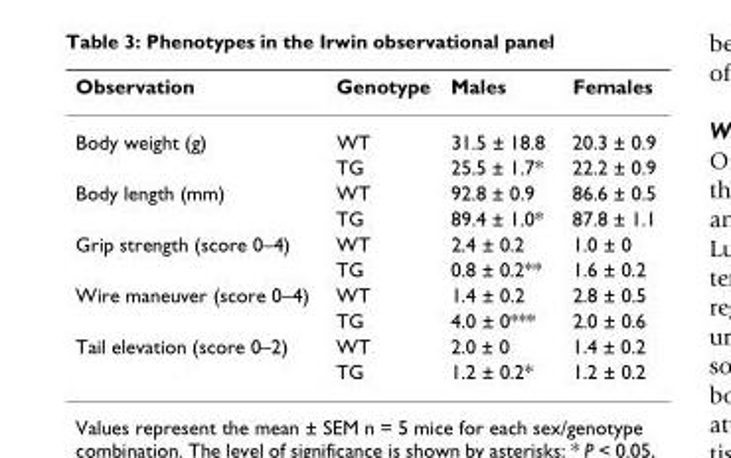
<table><thead><tr><td>Observation</td><td>Genotype</td><td>Males</td><td>Females</td></tr></thead><tbody><tr><td rowspan="2">Body weight (g)</td><td>WT</td><td>31.5 ± 18.8</td><td>20.3 ± 0.9</td></tr><tr><td>TG</td><td>25.5 ± 1.7*</td><td>22.2 ± 0.9</td></tr><tr><td rowspan="2">Body length (mm)</td><td>WT</td><td>92.8 ± 0.9</td><td>86.6 ± 0.5</td></tr><tr><td>TG</td><td>89.4 ± 1.0*</td><td>87.8 ± 1.1</td></tr><tr><td rowspan="2">Grip strength (score 0–4)</td><td>WT</td><td>2.4 ± 0.2</td><td>1.0 ± 0</td></tr><tr><td>TG</td><td>0.8 ± 0.2**</td><td>1.6 ± 0.2</td></tr><tr><td rowspan="2">Wire maneuver (score 0–4)</td><td>WT</td><td>1.4 ± 0.2</td><td>2.8 ± 0.5</td></tr><tr><td>TG</td><td>4.0 ± 0***</td><td>2.0 ± 0.6</td></tr><tr><td rowspan="2">Tail elevation (score 0–2)</td><td>WT</td><td>2.0 ± 0</td><td>1.4 ± 0.2</td></tr><tr><td>TG</td><td>1.2 ± 0.2*</td><td>1.2 ± 0.2</td></tr></tbody></table>